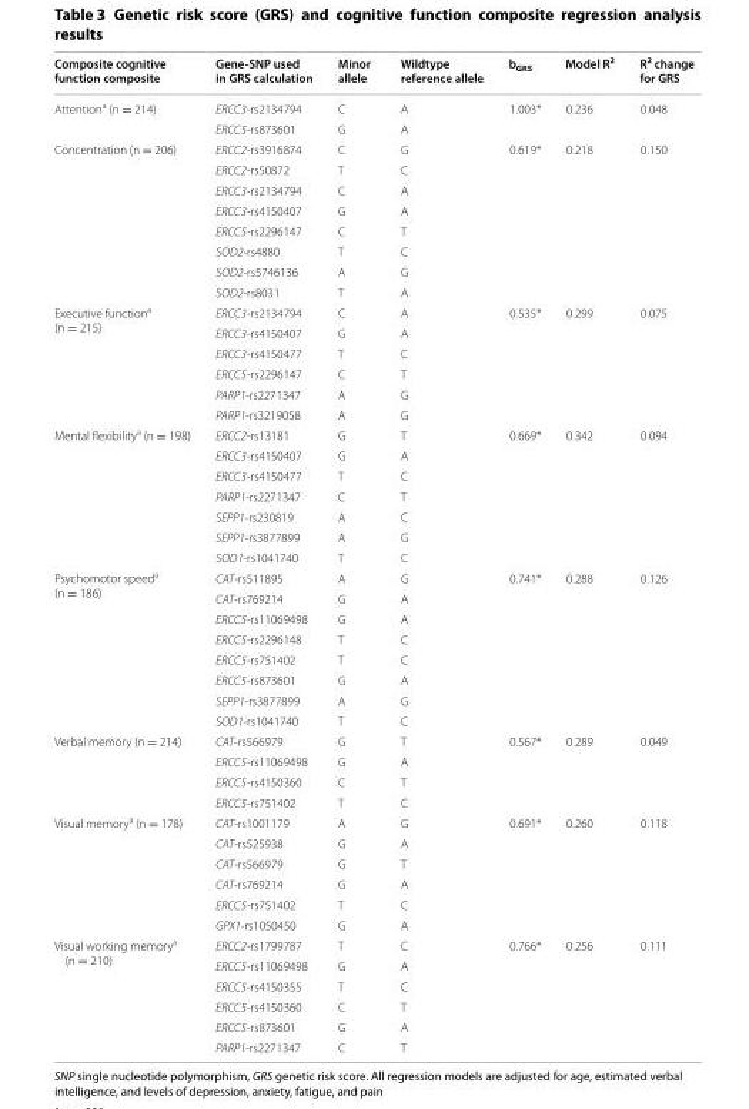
<table><thead><tr><td>Composite cognitive function composite</td><td>Gene-SNP used in GRS calculation</td><td>Minor allele</td><td>Wildtype reference allele</td><td>b<sub>GRS</sub></td><td>Model R<sup>2</sup></td><td>R<sup>2</sup> change for GRS</td></tr></thead><tbody><tr><td rowspan="2">Attention<sup>a</sup> (n = 214)</td><td>ERCC3-rs2134794</td><td>C</td><td>A</td><td rowspan="2">1.003*</td><td rowspan="2">0.236</td><td rowspan="2">0.048</td></tr><tr><td>ERCC5-rs873601</td><td>G</td><td>A</td></tr><tr><td rowspan="8">Concentration (n = 206)</td><td>ERCC2-rs3916874</td><td>C</td><td>G</td><td rowspan="8">0.619*</td><td rowspan="8">0.218</td><td rowspan="8">0.150</td></tr><tr><td>ERCC2-rs50872</td><td>T</td><td>C</td></tr><tr><td>ERCC3-rs2134794</td><td>C</td><td>A</td></tr><tr><td>ERCC3-rs4150407</td><td>G</td><td>A</td></tr><tr><td>ERCC5-rs2296147</td><td>C</td><td>T</td></tr><tr><td>SOD2-rs4880</td><td>T</td><td>C</td></tr><tr><td>SOD2-rs5746136</td><td>A</td><td>G</td></tr><tr><td>SOD2-rs8031</td><td>T</td><td>A</td></tr><tr><td rowspan="6">Executive function<sup>a</sup> (n = 215)</td><td>ERCC3-rs2134794</td><td>C</td><td>A</td><td rowspan="6">0.535*</td><td rowspan="6">0.299</td><td rowspan="6">0.075</td></tr><tr><td>ERCC3-rs4150407</td><td>G</td><td>A</td></tr><tr><td>ERCC3-rs4150477</td><td>T</td><td>C</td></tr><tr><td>ERCC5-rs2296147</td><td>C</td><td>T</td></tr><tr><td>PARP1-rs2271347</td><td>A</td><td>G</td></tr><tr><td>PARP1-rs3219058</td><td>A</td><td>G</td></tr><tr><td rowspan="7">Mental flexibility<sup>a</sup> (n = 198)</td><td>ERCC2-rs13181</td><td>G</td><td>T</td><td rowspan="7">0.669*</td><td rowspan="7">0.342</td><td rowspan="7">0.094</td></tr><tr><td>ERCC3-rs4150407</td><td>G</td><td>A</td></tr><tr><td>ERCC3-rs4150477</td><td>T</td><td>C</td></tr><tr><td>PARP1-rs2271347</td><td>C</td><td>T</td></tr><tr><td>SEPP1-rs230819</td><td>A</td><td>C</td></tr><tr><td>SEPP1-rs3877899</td><td>A</td><td>G</td></tr><tr><td>SOD1-rs1041740</td><td>T</td><td>C</td></tr><tr><td rowspan="8">Psychomotor speed<sup>a</sup> (n = 186)</td><td>CAT-rs511895</td><td>A</td><td>G</td><td rowspan="3">0.741*</td><td rowspan="8">0.288</td><td rowspan="8">0.126</td></tr><tr><td>CAT-rs769214</td><td>G</td><td>A</td></tr><tr><td>ERCC5-rs11069498</td><td>G</td><td>A</td></tr><tr><td>ERCC5-rs2296148</td><td>T</td><td>C</td><td rowspan="5"></td></tr><tr><td>ERCC5-rs751402</td><td>T</td><td>C</td></tr><tr><td>ERCC5-rs873601</td><td>G</td><td>A</td></tr><tr><td>SEPP1-rs3877899</td><td>A</td><td>G</td></tr><tr><td>SOD1-rs1041740</td><td>T</td><td>C</td></tr><tr><td rowspan="4">Verbal memory (n = 214)</td><td>CAT-rs566979</td><td>G</td><td>T</td><td rowspan="4">0.567*</td><td rowspan="4">0.289</td><td rowspan="4">0.049</td></tr><tr><td>ERCC5-rs11069498</td><td>G</td><td>A</td></tr><tr><td>ERCC5-rs4150360</td><td>C</td><td>T</td></tr><tr><td>ERCC5-rs751402</td><td>T</td><td>C</td></tr><tr><td rowspan="6">Visual memory<sup>a</sup> (n = 178)</td><td>CAT-rs1001179</td><td>A</td><td>G</td><td rowspan="6">0.691*</td><td rowspan="6">0.260</td><td rowspan="6">0.118</td></tr><tr><td>CAT-rs525938</td><td>G</td><td>A</td></tr><tr><td>CAT-rs566979</td><td>G</td><td>T</td></tr><tr><td>CAT-rs769214</td><td>G</td><td>A</td></tr><tr><td>ERCC5-rs751402</td><td>T</td><td>C</td></tr><tr><td>GPX1-rs1050450</td><td>G</td><td>A</td></tr><tr><td rowspan="6">Visual working memory<sup>a</sup> (n = 210)</td><td>ERCC2-rs1799787</td><td>T</td><td>C</td><td rowspan="6">0.766*</td><td rowspan="6">0.256</td><td rowspan="6">0.111</td></tr><tr><td>ERCC5-rs11069498</td><td>G</td><td>A</td></tr><tr><td>ERCC5-rs4150355</td><td>T</td><td>C</td></tr><tr><td>ERCC5-rs4150360</td><td>C</td><td>T</td></tr><tr><td>ERCC5-rs873601</td><td>G</td><td>A</td></tr><tr><td>PARP1-rs2271347</td><td>C</td><td>T</td></tr></tbody></table>